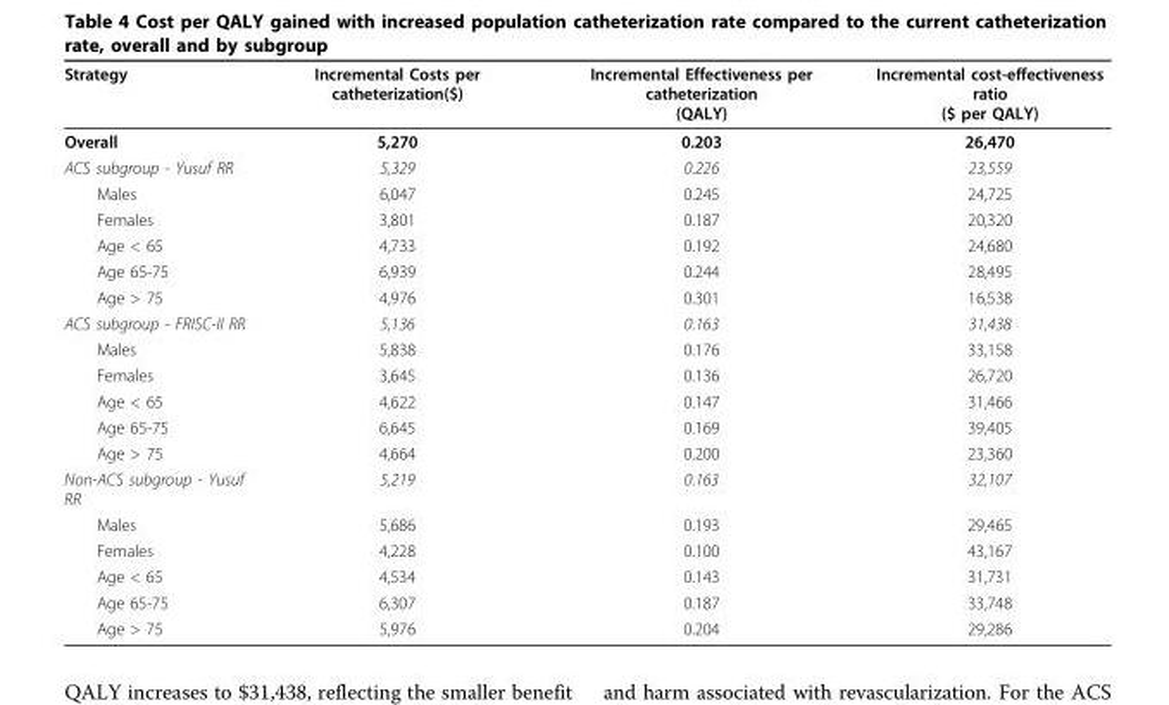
<table><thead><tr><td>Strategy</td><td>Incremental Costs per catheterization($)</td><td>Incremental Effectiveness per catheterization (QALY)</td><td>Incremental cost-effectiveness ratio ($ per QALY)</td></tr></thead><tbody><tr><td>Overall</td><td>5,270</td><td>0.203</td><td>26,470</td></tr><tr><td>ACS subgroup - Yusuf RR</td><td>5,329</td><td>0.226</td><td>23,559</td></tr><tr><td>Males</td><td>6,047</td><td>0.245</td><td>24,725</td></tr><tr><td>Females</td><td>3,801</td><td>0.187</td><td>20,320</td></tr><tr><td>Age &lt; 65</td><td>4,733</td><td>0.192</td><td>24,680</td></tr><tr><td>Age 65-75</td><td>6,939</td><td>0.244</td><td>28,495</td></tr><tr><td>Age &gt; 75</td><td>4,976</td><td>0.301</td><td>16,538</td></tr><tr><td>ACS subgroup - FRISC-II RR</td><td>5,136</td><td>0.163</td><td>31,438</td></tr><tr><td>Males</td><td>5,838</td><td>0.176</td><td>33,158</td></tr><tr><td>Females</td><td>3,645</td><td>0.136</td><td>26,720</td></tr><tr><td>Age &lt; 65</td><td>4,622</td><td>0.147</td><td>31,466</td></tr><tr><td>Age 65-75</td><td>6,645</td><td>0.169</td><td>39,405</td></tr><tr><td>Age &gt; 75</td><td>4,664</td><td>0.200</td><td>23,360</td></tr><tr><td>Non-ACS subgroup - Yusuf RR</td><td>5,219</td><td>0.163</td><td>32,107</td></tr><tr><td>Males</td><td>5,686</td><td>0.193</td><td>29,465</td></tr><tr><td>Females</td><td>4,228</td><td>0.100</td><td>43,167</td></tr><tr><td>Age &lt; 65</td><td>4,534</td><td>0.143</td><td>31,731</td></tr><tr><td>Age 65-75</td><td>6,307</td><td>0.187</td><td>33,748</td></tr><tr><td>Age &gt; 75</td><td>5,976</td><td>0.204</td><td>29,286</td></tr></tbody></table>